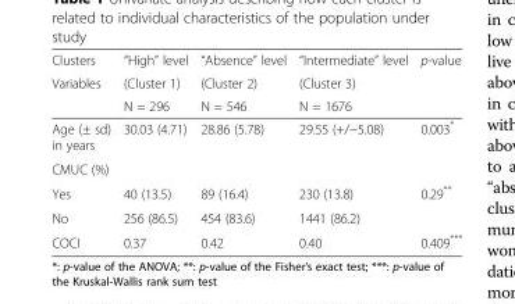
<table><thead><tr><td rowspan="3">Clusters Variables</td><td rowspan="3">“High” level (Cluster 1) N = 296</td><td rowspan="3">“Absence” level (Cluster 2) N = 546</td><td rowspan="3">“Intermediate” level (Cluster 3) N = 1676</td><td rowspan="3">p-value</td></tr><tr></tr><tr></tr></thead><tbody><tr><td>Age (± sd) in years</td><td>30.03 (4.71)</td><td>28.86 (5.78)</td><td>29.55 (+/−5.08)</td><td>0.003*</td></tr><tr><td colspan="5">CMUC (%)</td></tr><tr><td>Yes</td><td>40 (13.5)</td><td>89 (16.4)</td><td>230 (13.8)</td><td>0.29**</td></tr><tr><td>No</td><td>256 (86.5)</td><td>454 (83.6)</td><td>1441 (86.2)</td><td></td></tr><tr><td>COCI</td><td>0.37</td><td>0.42</td><td>0.40</td><td>0.409***</td></tr></tbody></table>